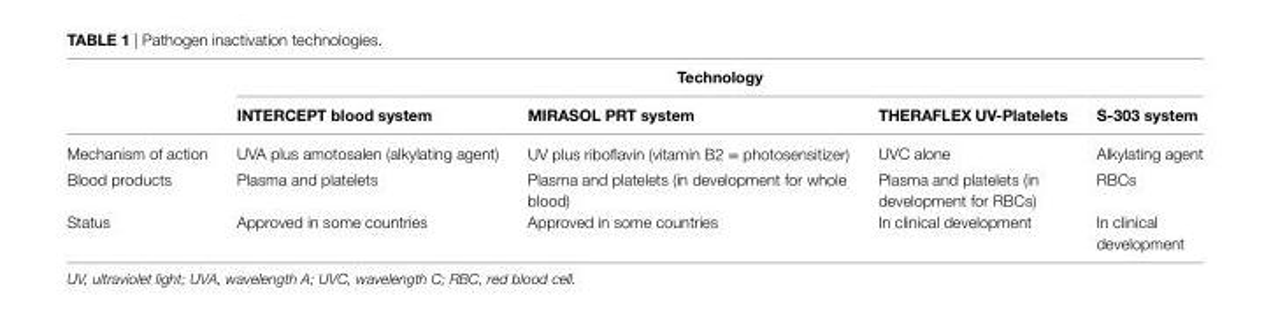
<table><thead><tr><td rowspan="2"></td><td colspan="4">Technology</td></tr><tr><td>inTeRCePT blood system</td><td>MiRASOL PRT system</td><td>THeRAFLeX Uv-Platelets</td><td>S-303 system</td></tr></thead><tbody><tr><td>Mechanism of action</td><td>UVA plus amotosalen (alkylating agent)</td><td>UV plus riboflavin (vitamin B2 = photosensitizer)</td><td>UVC alone</td><td>Alkylating agent</td></tr><tr><td>Blood products</td><td>Plasma and platelets</td><td>Plasma and platelets (in development for whole blood)</td><td>Plasma and platelets (in development for RBCs)</td><td>RBCs</td></tr><tr><td>Status</td><td>Approved in some countries</td><td>Approved in some countries</td><td>In clinical development</td><td>In clinical development</td></tr></tbody></table>